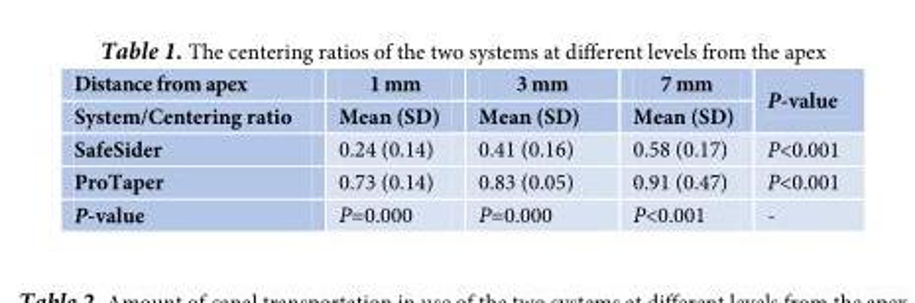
<table><thead><tr><td rowspan="2">Distance from apex System/Centering ratio</td><td rowspan="2">1 mm Mean (SD)</td><td rowspan="2">3 mm Mean (SD)</td><td rowspan="2">7 mm Mean (SD)</td><td rowspan="2">P-value</td></tr><tr></tr></thead><tbody><tr><td>SafeSider</td><td>0.24 (0.14)</td><td>0.41 (0.16)</td><td>0.58 (0.17)</td><td>P&lt;0.001</td></tr><tr><td>ProTaper</td><td>0.73 (0.14)</td><td>0.83 (0.05)</td><td>0.91 (0.47)</td><td>P&lt;0.001</td></tr><tr><td>P-value</td><td>P=0.000</td><td>P=0.000</td><td>P&lt;0.001</td><td>-</td></tr></tbody></table>